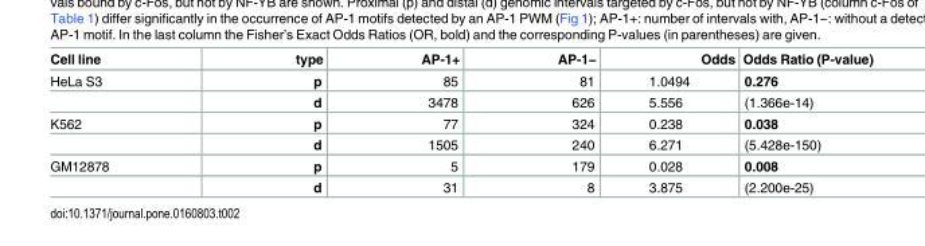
<table><thead><tr><td>Cell line</td><td>type</td><td>AP-1+</td><td>AP-1−</td><td>Odds</td><td>Odds Ratio (P-value)</td></tr></thead><tbody><tr><td rowspan="2">HeLa S3</td><td>p</td><td>85</td><td>81</td><td>1.0494</td><td>0.276</td></tr><tr><td>d</td><td>3478</td><td>626</td><td>5.556</td><td>(1.366e-14)</td></tr><tr><td rowspan="2">K562</td><td>p</td><td>77</td><td>324</td><td>0.238</td><td>0.038</td></tr><tr><td>d</td><td>1505</td><td>240</td><td>6.271</td><td>(5.428e-150)</td></tr><tr><td rowspan="2">GM12878</td><td>p</td><td>5</td><td>179</td><td>0.028</td><td>0.008</td></tr><tr><td>d</td><td>31</td><td>8</td><td>3.875</td><td>(2.200e-25)</td></tr></tbody></table>